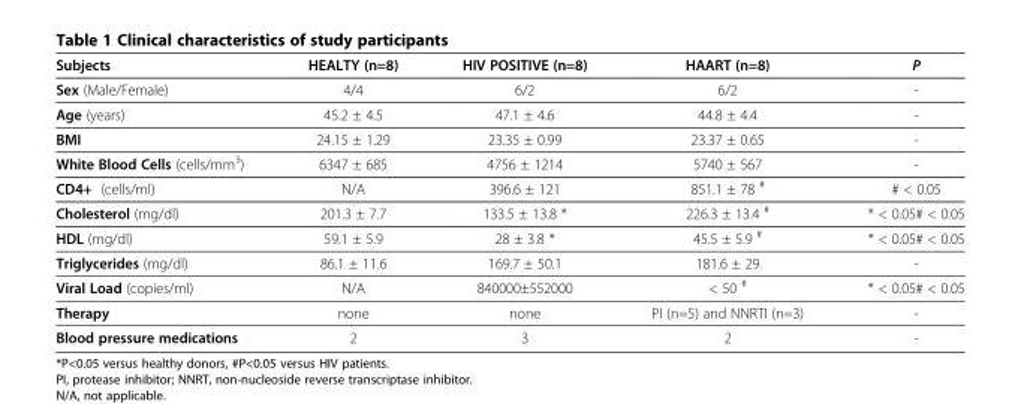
<table><thead><tr><td>Subjects</td><td>HEALTY (n=8)</td><td>HIV POSITIVE (n=8)</td><td>HAART (n=8)</td><td>P</td></tr></thead><tbody><tr><td>Sex (Male/Female)</td><td>4/4</td><td>6/2</td><td>6/2</td><td>-</td></tr><tr><td>Age (years)</td><td>45.2 ± 4.5</td><td>47.1 ± 4.6</td><td>44.8 ± 4.4</td><td>-</td></tr><tr><td>BMI</td><td>24.15 ± 1.29</td><td>23.35 ± 0.99</td><td>23.37 ± 0.65</td><td>-</td></tr><tr><td>White Blood Cells (cells/mm<sup>3</sup>)</td><td>6347 ± 685</td><td>4756 ± 1214</td><td>5740 ± 567</td><td>-</td></tr><tr><td>CD4+ (cells/ml)</td><td>N/A</td><td>396.6 ± 121</td><td>851.1 ± 78 <sup>#</sup></td><td># &lt; 0.05</td></tr><tr><td>Cholesterol (mg/dl)</td><td>201.3 ± 7.7</td><td>133.5 ± 13.8 *</td><td>226.3 ± 13.4 <sup>#</sup></td><td>* &lt; 0.05# &lt; 0.05</td></tr><tr><td>HDL (mg/dl)</td><td>59.1 ± 5.9</td><td>28 ± 3.8 *</td><td>45.5 ± 5.9 <sup>#</sup></td><td>* &lt; 0.05# &lt; 0.05</td></tr><tr><td>Triglycerides (mg/dl)</td><td>86.1 ± 11.6</td><td>169.7 ± 50.1</td><td>181.6 ± 29</td><td>-</td></tr><tr><td>Viral Load (copies/ml)</td><td>N/A</td><td>840000±552000</td><td>&lt; 50 <sup>#</sup></td><td>* &lt; 0.05# &lt; 0.05</td></tr><tr><td>Therapy</td><td>none</td><td>none</td><td>PI (n=5) and NNRTI (n=3)</td><td>-</td></tr><tr><td>Blood pressure medications</td><td>2</td><td>3</td><td>2</td><td>-</td></tr></tbody></table>